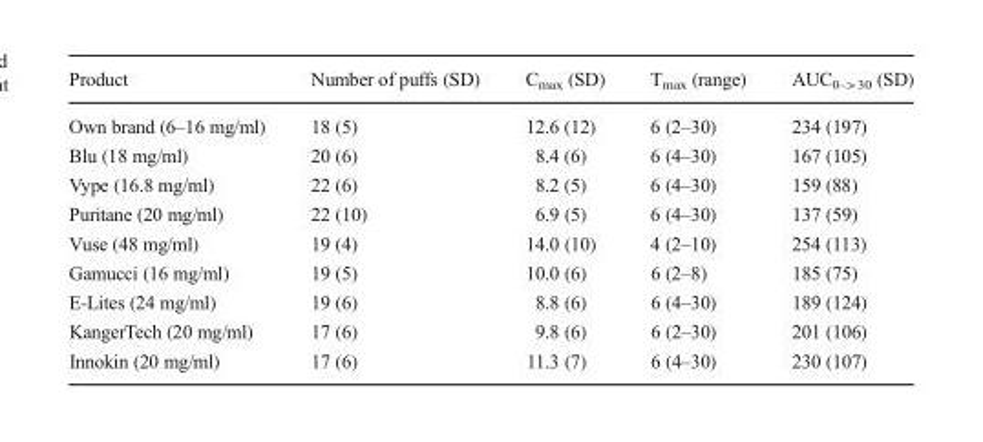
<table><thead><tr><td>Product</td><td>Number of puffs (SD)</td><td>C<sub>max</sub> (SD)</td><td>T<sub>max</sub> (range)</td><td>AUC<sub>0–&gt; 30</sub> (SD)</td></tr></thead><tbody><tr><td>Own brand (6–16 mg/ml)</td><td>18 (5)</td><td>12.6 (12)</td><td>6 (2–30)</td><td>234 (197)</td></tr><tr><td>Blu (18 mg/ml)</td><td>20 (6)</td><td>8.4 (6)</td><td>6 (4–30)</td><td>167 (105)</td></tr><tr><td>Vype (16.8 mg/ml)</td><td>22 (6)</td><td>8.2 (5)</td><td>6 (4–30)</td><td>159 (88)</td></tr><tr><td>Puritane (20 mg/ml)</td><td>22 (10)</td><td>6.9 (5)</td><td>6 (4–30)</td><td>137 (59)</td></tr><tr><td>Vuse (48 mg/ml)</td><td>19 (4)</td><td>14.0 (10)</td><td>4 (2–10)</td><td>254 (113)</td></tr><tr><td>Gamucci (16 mg/ml)</td><td>19 (5)</td><td>10.0 (6)</td><td>6 (2–8)</td><td>185 (75)</td></tr><tr><td>E-Lites (24 mg/ml)</td><td>19 (6)</td><td>8.8 (6)</td><td>6 (4–30)</td><td>189 (124)</td></tr><tr><td>KangerTech (20 mg/ml)</td><td>17 (6)</td><td>9.8 (6)</td><td>6 (2–30)</td><td>201 (106)</td></tr><tr><td>Innokin (20 mg/ml)</td><td>17 (6)</td><td>11.3 (7)</td><td>6 (4–30)</td><td>230 (107)</td></tr></tbody></table>